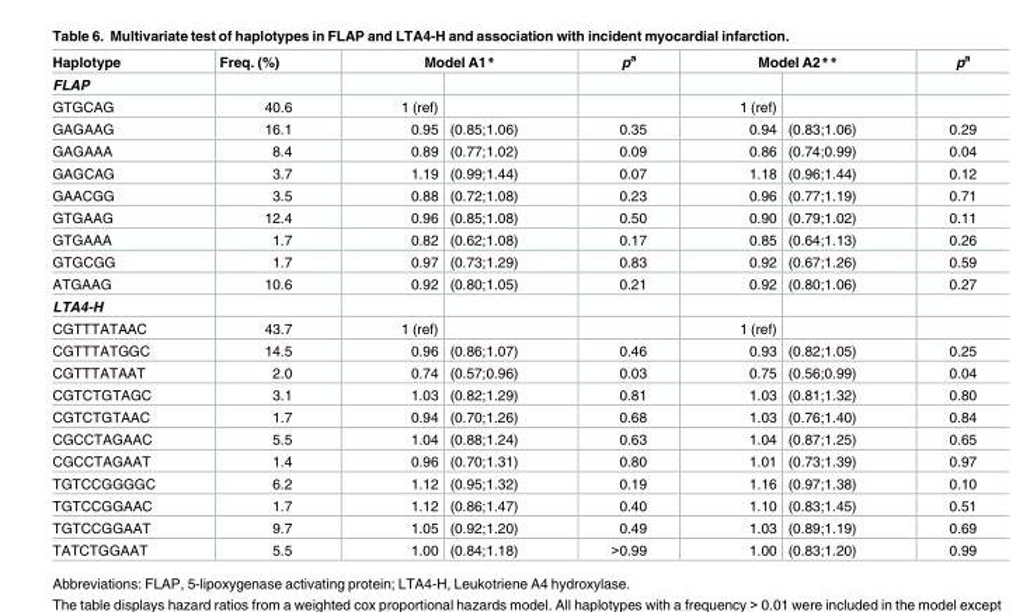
<table><thead><tr><td rowspan="2">Haplotype FLAP</td><td rowspan="2">Freq. (%)</td><td colspan="2">Model A1*</td><td rowspan="2">p<sup>a</sup></td><td colspan="2">Model A2**</td><td rowspan="2">p<sup>a</sup></td></tr><tr><td></td><td></td><td></td><td></td></tr></thead><tbody><tr><td>GTGCAG</td><td>40.6</td><td>1 (ref)</td><td></td><td></td><td>1 (ref)</td><td></td><td></td></tr><tr><td>GAGAAG</td><td>16.1</td><td>0.95</td><td>(0.85;1.06)</td><td>0.35</td><td>0.94</td><td>(0.83;1.06)</td><td>0.29</td></tr><tr><td>GAGAAA</td><td>8.4</td><td>0.89</td><td>(0.77;1.02)</td><td>0.09</td><td>0.86</td><td>(0.74;0.99)</td><td>0.04</td></tr><tr><td>GAGCAG</td><td>3.7</td><td>1.19</td><td>(0.99;1.44)</td><td>0.07</td><td>1.18</td><td>(0.96;1.44)</td><td>0.12</td></tr><tr><td>GAACGG</td><td>3.5</td><td>0.88</td><td>(0.72;1.08)</td><td>0.23</td><td>0.96</td><td>(0.77;1.19)</td><td>0.71</td></tr><tr><td>GTGAAG</td><td>12.4</td><td>0.96</td><td>(0.85;1.08)</td><td>0.50</td><td>0.90</td><td>(0.79;1.02)</td><td>0.11</td></tr><tr><td>GTGAAA</td><td>1.7</td><td>0.82</td><td>(0.62;1.08)</td><td>0.17</td><td>0.85</td><td>(0.64;1.13)</td><td>0.26</td></tr><tr><td>GTGCGG</td><td>1.7</td><td>0.97</td><td>(0.73;1.29)</td><td>0.83</td><td>0.92</td><td>(0.67;1.26)</td><td>0.59</td></tr><tr><td>ATGAAG</td><td>10.6</td><td>0.92</td><td>(0.80;1.05)</td><td>0.21</td><td>0.92</td><td>(0.80;1.06)</td><td>0.27</td></tr><tr><td colspan="8">LTA4-H</td></tr><tr><td>CGTTTATAAC</td><td>43.7</td><td>1 (ref)</td><td></td><td></td><td>1 (ref)</td><td></td><td></td></tr><tr><td>CGTTTATGGC</td><td>14.5</td><td>0.96</td><td>(0.86;1.07)</td><td>0.46</td><td>0.93</td><td>(0.82;1.05)</td><td>0.25</td></tr><tr><td>CGTTTATAAT</td><td>2.0</td><td>0.74</td><td>(0.57;0.96)</td><td>0.03</td><td>0.75</td><td>(0.56;0.99)</td><td>0.04</td></tr><tr><td>CGTCTGTAGC</td><td>3.1</td><td>1.03</td><td>(0.82;1.29)</td><td>0.81</td><td>1.03</td><td>(0.81;1.32)</td><td>0.80</td></tr><tr><td>CGTCTGTAAC</td><td>1.7</td><td>0.94</td><td>(0.70;1.26)</td><td>0.68</td><td>1.03</td><td>(0.76;1.40)</td><td>0.84</td></tr><tr><td>CGCCTAGAAC</td><td>5.5</td><td>1.04</td><td>(0.88;1.24)</td><td>0.63</td><td>1.04</td><td>(0.87;1.25)</td><td>0.65</td></tr><tr><td>CGCCTAGAAT</td><td>1.4</td><td>0.96</td><td>(0.70;1.31)</td><td>0.80</td><td>1.01</td><td>(0.73;1.39)</td><td>0.97</td></tr><tr><td>TGTCCGGGGC</td><td>6.2</td><td>1.12</td><td>(0.95;1.32)</td><td>0.19</td><td>1.16</td><td>(0.97;1.38)</td><td>0.10</td></tr><tr><td>TGTCCGGAAC</td><td>1.7</td><td>1.12</td><td>(0.86;1.47)</td><td>0.40</td><td>1.10</td><td>(0.83;1.45)</td><td>0.51</td></tr><tr><td>TGTCCGGAAT</td><td>9.7</td><td>1.05</td><td>(0.92;1.20)</td><td>0.49</td><td>1.03</td><td>(0.89;1.19)</td><td>0.69</td></tr><tr><td>TATCTGGAAT</td><td>5.5</td><td>1.00</td><td>(0.84;1.18)</td><td>&gt;0.99</td><td>1.00</td><td>(0.83;1.20)</td><td>0.99</td></tr></tbody></table>